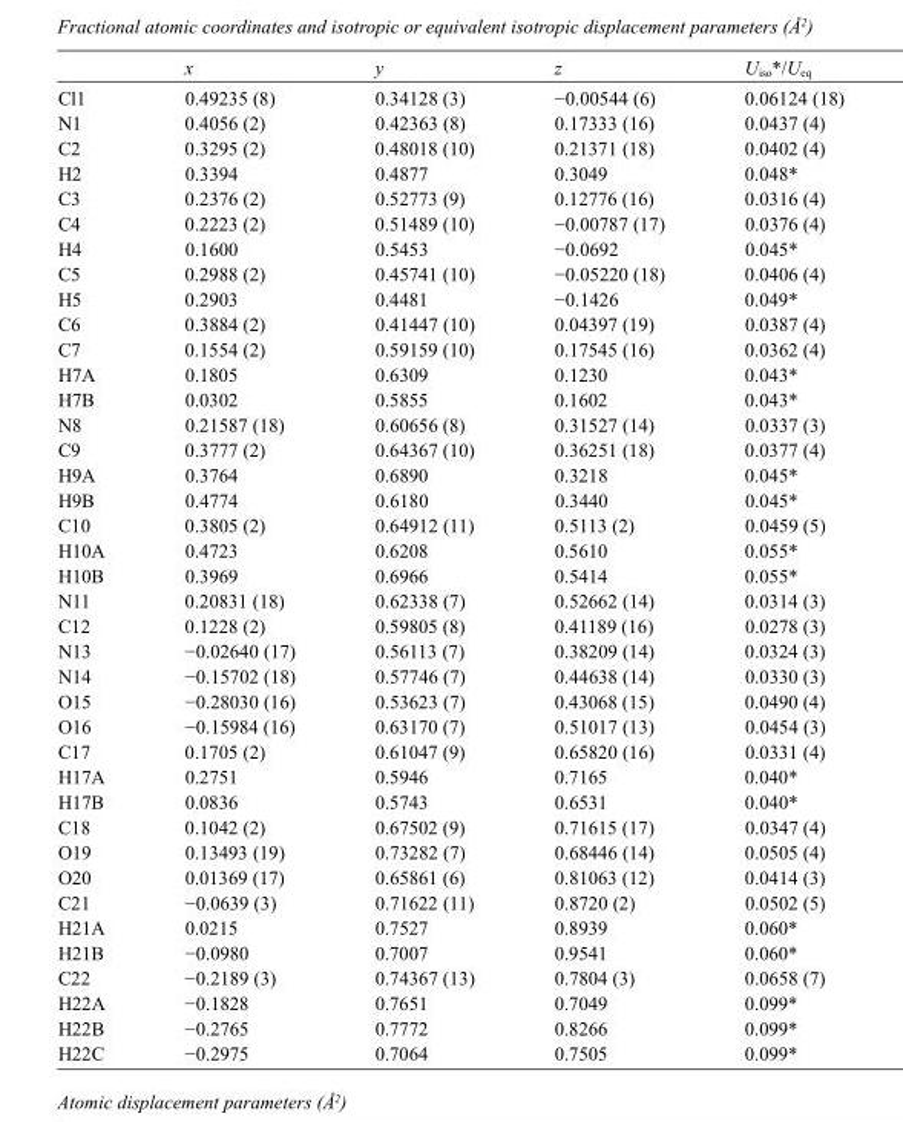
<table><thead><tr><td></td><td>x</td><td>y</td><td>z</td><td>U<sub>iso</sub>*/U<sub>eq</sub></td></tr></thead><tbody><tr><td>Cl1</td><td>0.49235 (8)</td><td>0.34128 (3)</td><td>−0.00544 (6)</td><td>0.06124 (18)</td></tr><tr><td>N1</td><td>0.4056 (2)</td><td>0.42363 (8)</td><td>0.17333 (16)</td><td>0.0437 (4)</td></tr><tr><td>C2</td><td>0.3295 (2)</td><td>0.48018 (10)</td><td>0.21371 (18)</td><td>0.0402 (4)</td></tr><tr><td>H2</td><td>0.3394</td><td>0.4877</td><td>0.3049</td><td>0.048*</td></tr><tr><td>C3</td><td>0.2376 (2)</td><td>0.52773 (9)</td><td>0.12776 (16)</td><td>0.0316 (4)</td></tr><tr><td>C4</td><td>0.2223 (2)</td><td>0.51489 (10)</td><td>−0.00787 (17)</td><td>0.0376 (4)</td></tr><tr><td>H4</td><td>0.1600</td><td>0.5453</td><td>−0.0692</td><td>0.045*</td></tr><tr><td>C5</td><td>0.2988 (2)</td><td>0.45741 (10)</td><td>−0.05220 (18)</td><td>0.0406 (4)</td></tr><tr><td>H5</td><td>0.2903</td><td>0.4481</td><td>−0.1426</td><td>0.049*</td></tr><tr><td>C6</td><td>0.3884 (2)</td><td>0.41447 (10)</td><td>0.04397 (19)</td><td>0.0387 (4)</td></tr><tr><td>C7</td><td>0.1554 (2)</td><td>0.59159 (10)</td><td>0.17545 (16)</td><td>0.0362 (4)</td></tr><tr><td>H7A</td><td>0.1805</td><td>0.6309</td><td>0.1230</td><td>0.043*</td></tr><tr><td>H7B</td><td>0.0302</td><td>0.5855</td><td>0.1602</td><td>0.043*</td></tr><tr><td>N8</td><td>0.21587 (18)</td><td>0.60656 (8)</td><td>0.31527 (14)</td><td>0.0337 (3)</td></tr><tr><td>C9</td><td>0.3777 (2)</td><td>0.64367 (10)</td><td>0.36251 (18)</td><td>0.0377 (4)</td></tr><tr><td>H9A</td><td>0.3764</td><td>0.6890</td><td>0.3218</td><td>0.045*</td></tr><tr><td>H9B</td><td>0.4774</td><td>0.6180</td><td>0.3440</td><td>0.045*</td></tr><tr><td>C10</td><td>0.3805 (2)</td><td>0.64912 (11)</td><td>0.5113 (2)</td><td>0.0459 (5)</td></tr><tr><td>H10A</td><td>0.4723</td><td>0.6208</td><td>0.5610</td><td>0.055*</td></tr><tr><td>H10B</td><td>0.3969</td><td>0.6966</td><td>0.5414</td><td>0.055*</td></tr><tr><td>N11</td><td>0.20831 (18)</td><td>0.62338 (7)</td><td>0.52662 (14)</td><td>0.0314 (3)</td></tr><tr><td>C12</td><td>0.1228 (2)</td><td>0.59805 (8)</td><td>0.41189 (16)</td><td>0.0278 (3)</td></tr><tr><td>N13</td><td>−0.02640 (17)</td><td>0.56113 (7)</td><td>0.38209 (14)</td><td>0.0324 (3)</td></tr><tr><td>N14</td><td>−0.15702 (18)</td><td>0.57746 (7)</td><td>0.44638 (14)</td><td>0.0330 (3)</td></tr><tr><td>O15</td><td>−0.28030 (16)</td><td>0.53623 (7)</td><td>0.43068 (15)</td><td>0.0490 (4)</td></tr><tr><td>O16</td><td>−0.15984 (16)</td><td>0.63170 (7)</td><td>0.51017 (13)</td><td>0.0454 (3)</td></tr><tr><td>C17</td><td>0.1705 (2)</td><td>0.61047 (9)</td><td>0.65820 (16)</td><td>0.0331 (4)</td></tr><tr><td>H17A</td><td>0.2751</td><td>0.5946</td><td>0.7165</td><td>0.040*</td></tr><tr><td>H17B</td><td>0.0836</td><td>0.5743</td><td>0.6531</td><td>0.040*</td></tr><tr><td>C18</td><td>0.1042 (2)</td><td>0.67502 (9)</td><td>0.71615 (17)</td><td>0.0347 (4)</td></tr><tr><td>O19</td><td>0.13493 (19)</td><td>0.73282 (7)</td><td>0.68446 (14)</td><td>0.0505 (4)</td></tr><tr><td>O20</td><td>0.01369 (17)</td><td>0.65861 (6)</td><td>0.81063 (12)</td><td>0.0414 (3)</td></tr><tr><td>C21</td><td>−0.0639 (3)</td><td>0.71622 (11)</td><td>0.8720 (2)</td><td>0.0502 (5)</td></tr><tr><td>H21A</td><td>0.0215</td><td>0.7527</td><td>0.8939</td><td>0.060*</td></tr><tr><td>H21B</td><td>−0.0980</td><td>0.7007</td><td>0.9541</td><td>0.060*</td></tr><tr><td>C22</td><td>−0.2189 (3)</td><td>0.74367 (13)</td><td>0.7804 (3)</td><td>0.0658 (7)</td></tr><tr><td>H22A</td><td>−0.1828</td><td>0.7651</td><td>0.7049</td><td>0.099*</td></tr><tr><td>H22B</td><td>−0.2765</td><td>0.7772</td><td>0.8266</td><td>0.099*</td></tr><tr><td>H22C</td><td>−0.2975</td><td>0.7064</td><td>0.7505</td><td>0.099*</td></tr></tbody></table>